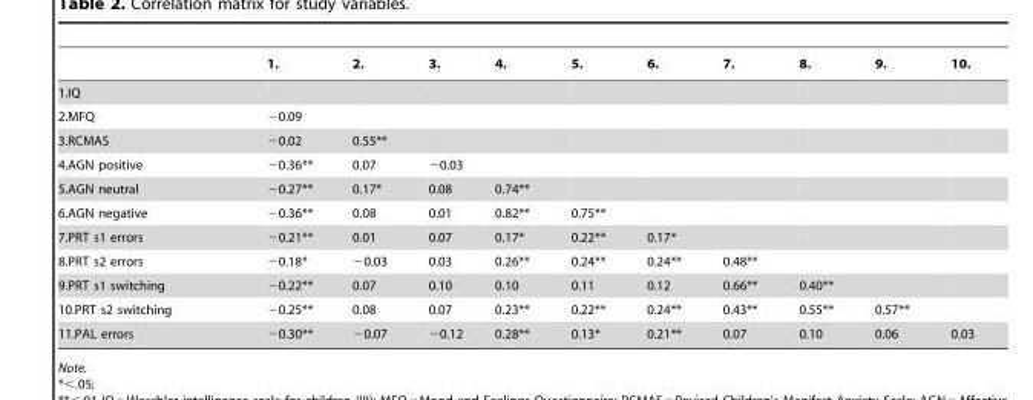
<table><thead><tr><td></td><td>1.</td><td>2.</td><td>3.</td><td>4.</td><td>5.</td><td>6.</td><td>7.</td><td>8.</td><td>9.</td><td>10.</td></tr></thead><tbody><tr><td colspan="11">1.IQ</td></tr><tr><td>2.MFQ</td><td>−0.09</td><td></td><td></td><td></td><td></td><td></td><td></td><td></td><td></td><td></td></tr><tr><td>3.RCMAS</td><td>−0.02</td><td>0.55**</td><td></td><td></td><td></td><td></td><td></td><td></td><td></td><td></td></tr><tr><td>4.AGN positive</td><td>−0.36**</td><td>0.07</td><td>−0.03</td><td></td><td></td><td></td><td></td><td></td><td></td><td></td></tr><tr><td>5.AGN neutral</td><td>−0.27**</td><td>0.17*</td><td>0.08</td><td>0.74**</td><td></td><td></td><td></td><td></td><td></td><td></td></tr><tr><td>6.AGN negative</td><td>−0.36**</td><td>0.08</td><td>0.01</td><td>0.82**</td><td>0.75**</td><td></td><td></td><td></td><td></td><td></td></tr><tr><td>7.PRT s1 errors</td><td>−0.21**</td><td>0.01</td><td>0.07</td><td>0.17*</td><td>0.22**</td><td>0.17*</td><td></td><td></td><td></td><td></td></tr><tr><td>8.PRT s2 errors</td><td>−0.18*</td><td>−0.03</td><td>0.03</td><td>0.26**</td><td>0.24**</td><td>0.24**</td><td>0.48**</td><td></td><td></td><td></td></tr><tr><td>9.PRT s1 switching</td><td>−0.22**</td><td>0.07</td><td>0.10</td><td>0.10</td><td>0.11</td><td>0.12</td><td>0.66**</td><td>0.40**</td><td></td><td></td></tr><tr><td>10.PRT s2 switching</td><td>−0.25**</td><td>0.08</td><td>0.07</td><td>0.23**</td><td>0.22**</td><td>0.24**</td><td>0.43**</td><td>0.55**</td><td>0.57**</td><td></td></tr><tr><td>11.PAL errors</td><td>−0.30**</td><td>−0.07</td><td>−0.12</td><td>0.28**</td><td>0.13*</td><td>0.21**</td><td>0.07</td><td>0.10</td><td>0.06</td><td>0.03</td></tr></tbody></table>